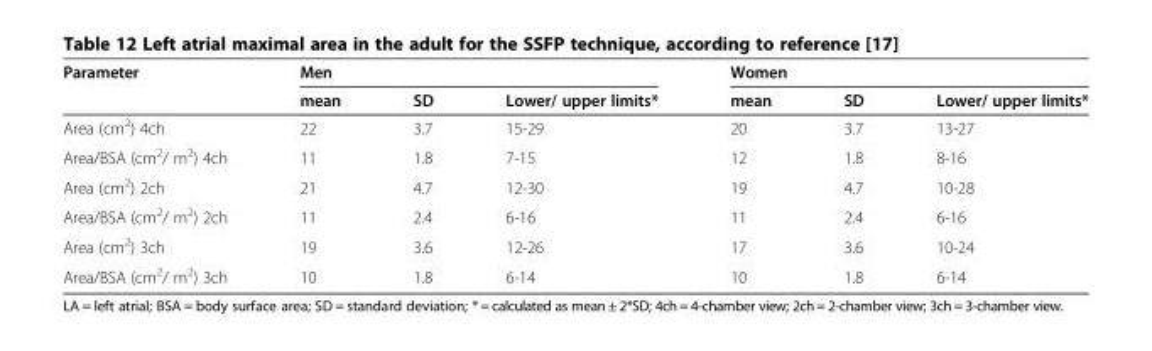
<table><thead><tr><td rowspan="2">Parameter</td><td colspan="3">Men</td><td colspan="3">Women</td></tr><tr><td>mean</td><td>SD</td><td>Lower/ upper limits*</td><td>mean</td><td>SD</td><td>Lower/ upper limits*</td></tr></thead><tbody><tr><td>Area (cm<sup>2</sup>) 4ch</td><td>22</td><td>3.7</td><td>15-29</td><td>20</td><td>3.7</td><td>13-27</td></tr><tr><td>Area/BSA (cm<sup>2</sup>/ m<sup>2</sup>) 4ch</td><td>11</td><td>1.8</td><td>7-15</td><td>12</td><td>1.8</td><td>8-16</td></tr><tr><td>Area (cm<sup>2</sup>) 2ch</td><td>21</td><td>4.7</td><td>12-30</td><td>19</td><td>4.7</td><td>10-28</td></tr><tr><td>Area/BSA (cm<sup>2</sup>/ m<sup>2</sup>) 2ch</td><td>11</td><td>2.4</td><td>6-16</td><td>11</td><td>2.4</td><td>6-16</td></tr><tr><td>Area (cm<sup>2</sup>) 3ch</td><td>19</td><td>3.6</td><td>12-26</td><td>17</td><td>3.6</td><td>10-24</td></tr><tr><td>Area/BSA (cm<sup>2</sup>/ m<sup>2</sup>) 3ch</td><td>10</td><td>1.8</td><td>6-14</td><td>10</td><td>1.8</td><td>6-14</td></tr></tbody></table>